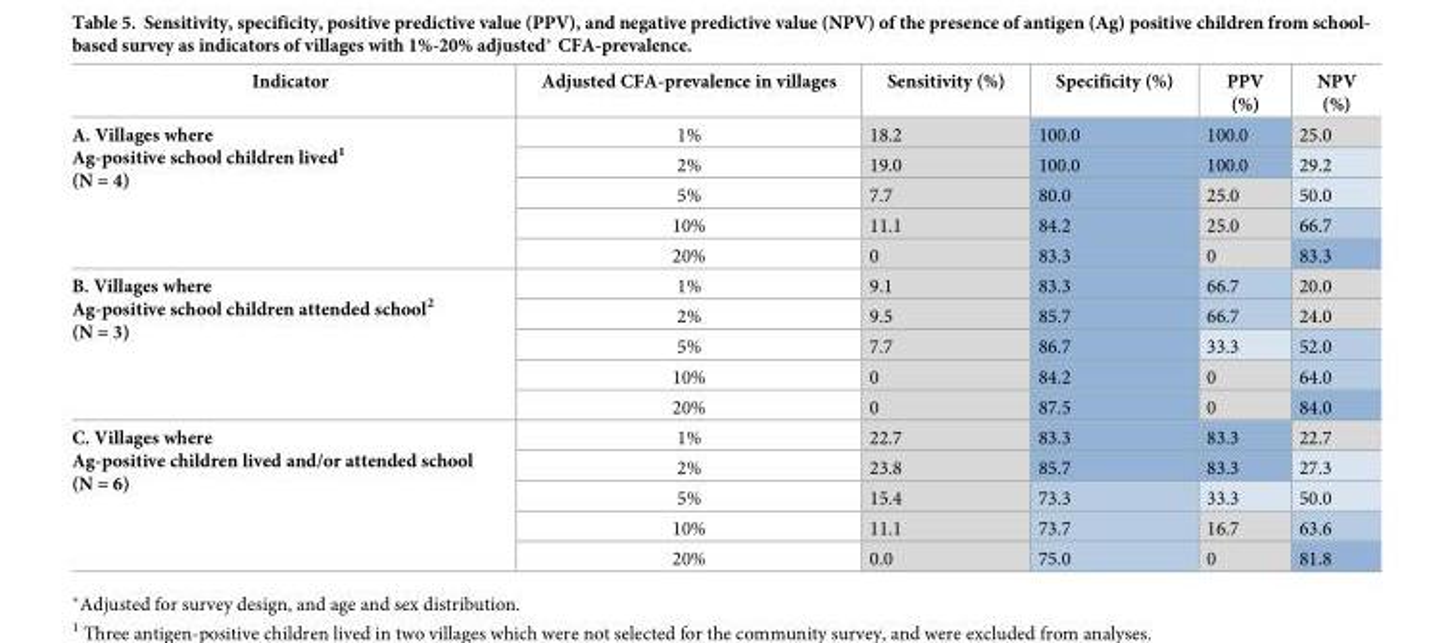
<table><thead><tr><td>Indicator</td><td>Adjusted CFA-prevalence in villages</td><td>Sensitivity (%)</td><td>Specificity (%)</td><td>PPV (%)</td><td>NPV (%)</td></tr></thead><tbody><tr><td rowspan="5">A. Villages where Ag-positive school children lived<sup>1</sup> (N = 4)</td><td>1%</td><td>18.2</td><td>100.0</td><td>100.0</td><td>25.0</td></tr><tr><td>2%</td><td>19.0</td><td>100.0</td><td>100.0</td><td>29.2</td></tr><tr><td>5%</td><td>7.7</td><td>80.0</td><td>25.0</td><td>50.0</td></tr><tr><td>10%</td><td>11.1</td><td>84.2</td><td>25.0</td><td>66.7</td></tr><tr><td>20%</td><td>0</td><td>83.3</td><td>0</td><td>83.3</td></tr><tr><td rowspan="5">B. Villages where Ag-positive school children attended school<sup>2</sup> (N = 3)</td><td>1%</td><td>9.1</td><td>83.3</td><td>66.7</td><td>20.0</td></tr><tr><td>2%</td><td>9.5</td><td>85.7</td><td>66.7</td><td>24.0</td></tr><tr><td>5%</td><td>7.7</td><td>86.7</td><td>33.3</td><td>52.0</td></tr><tr><td>10%</td><td>0</td><td>84.2</td><td>0</td><td>64.0</td></tr><tr><td>20%</td><td>0</td><td>87.5</td><td>0</td><td>84.0</td></tr><tr><td rowspan="5">C. Villages where Ag-positive children lived and/or attended school (N = 6)</td><td>1%</td><td>22.7</td><td>83.3</td><td>83.3</td><td>22.7</td></tr><tr><td>2%</td><td>23.8</td><td>85.7</td><td>83.3</td><td>27.3</td></tr><tr><td>5%</td><td>15.4</td><td>73.3</td><td>33.3</td><td>50.0</td></tr><tr><td>10%</td><td>11.1</td><td>73.7</td><td>16.7</td><td>63.6</td></tr><tr><td>20%</td><td>0.0</td><td>75.0</td><td>0</td><td>81.8</td></tr></tbody></table>